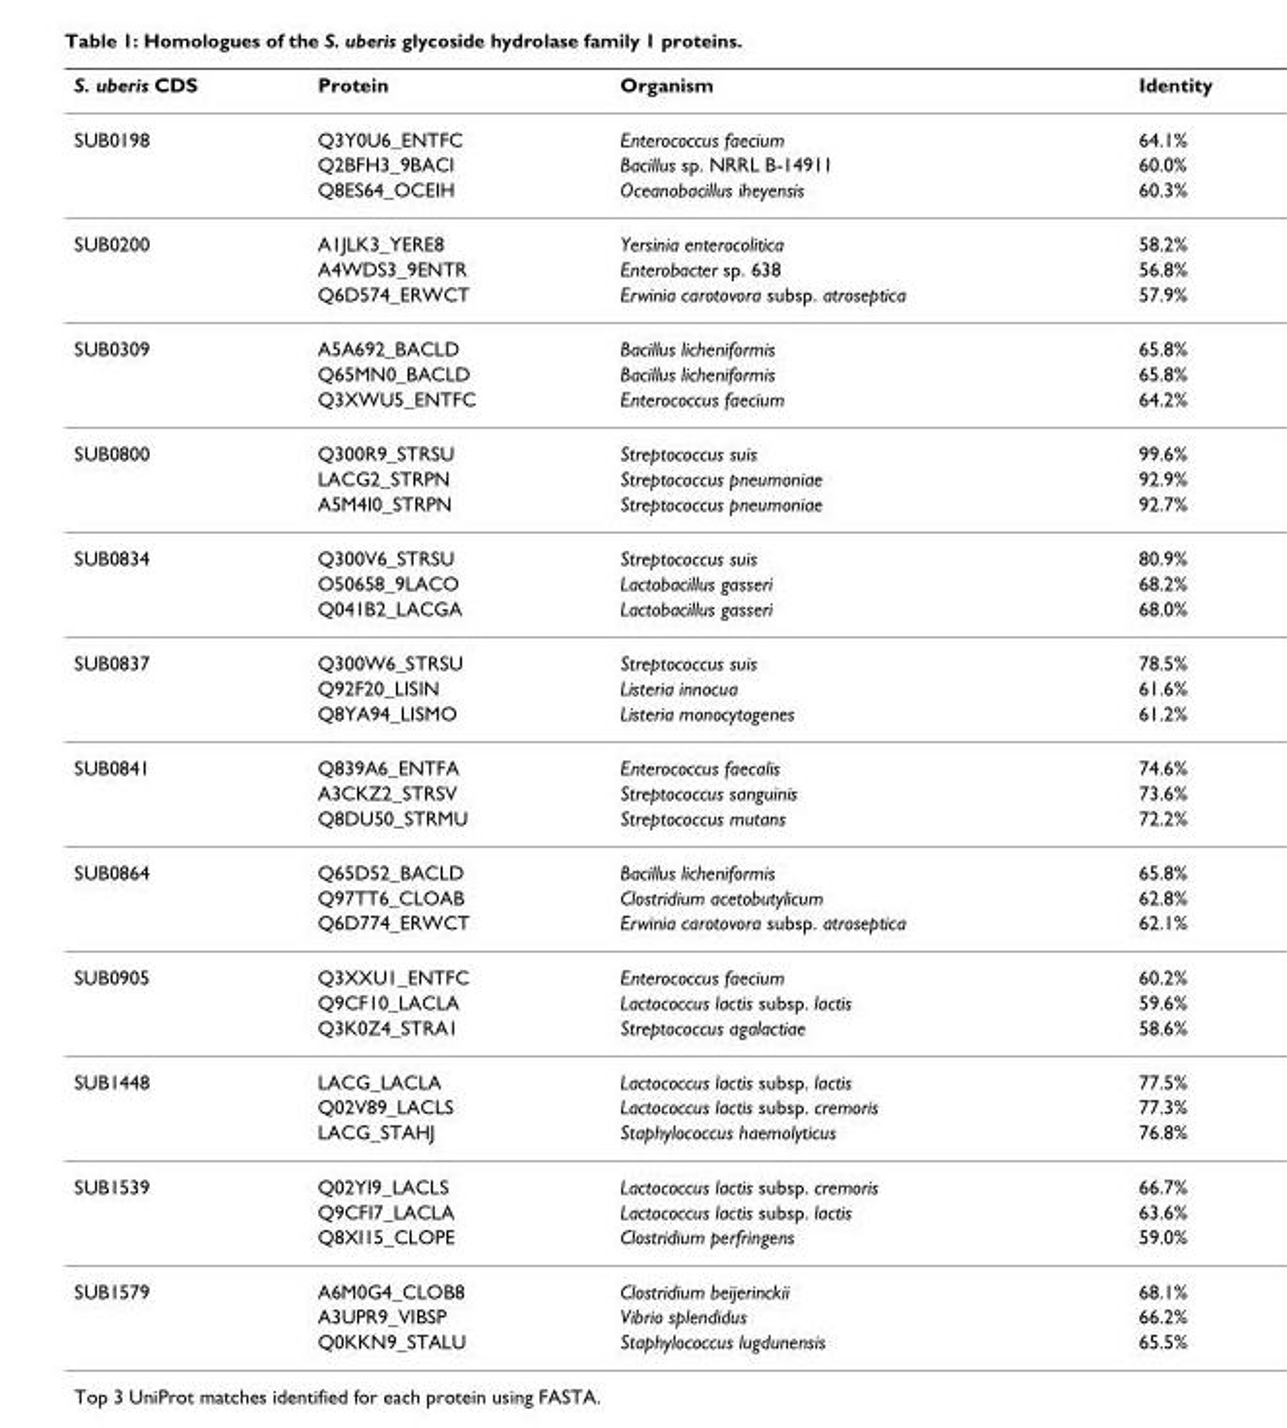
<table><thead><tr><td>S. uberis CDS</td><td>Protein</td><td>Organism</td><td>Identity</td></tr></thead><tbody><tr><td rowspan="3">SUB0198</td><td>Q3Y0U6_ENTFC</td><td>Enterococcus faecium</td><td>64.1%</td></tr><tr><td>Q2BFH3_9BACI</td><td>Bacillus sp. NRRL B-14911</td><td>60.0%</td></tr><tr><td>Q8ES64_OCEIH</td><td>Oceanobacillus iheyensis</td><td>60.3%</td></tr><tr><td rowspan="3">SUB0200</td><td>A1JLK3_YERE8</td><td>Yersinia enterocolitica</td><td>58.2%</td></tr><tr><td>A4WDS3_9ENTR</td><td>Enterobacter sp. 638</td><td>56.8%</td></tr><tr><td>Q6D574_ERWCT</td><td>Erwinia carotovora subsp. atroseptica</td><td>57.9%</td></tr><tr><td rowspan="3">SUB0309</td><td>A5A692_BACLD</td><td>Bacillus licheniformis</td><td>65.8%</td></tr><tr><td>Q65MN0_BACLD</td><td>Bacillus licheniformis</td><td>65.8%</td></tr><tr><td>Q3XWU5_ENTFC</td><td>Enterococcus faecium</td><td>64.2%</td></tr><tr><td rowspan="3">SUB0800</td><td>Q300R9_STRSU</td><td>Streptococcus suis</td><td>99.6%</td></tr><tr><td>LACG2_STRPN</td><td>Streptococcus pneumoniae</td><td>92.9%</td></tr><tr><td>A5M4I0_STRPN</td><td>Streptococcus pneumoniae</td><td>92.7%</td></tr><tr><td rowspan="3">SUB0834</td><td>Q300V6_STRSU</td><td>Streptococcus suis</td><td>80.9%</td></tr><tr><td>O50658_9LACO</td><td>Lactobacillus gasseri</td><td>68.2%</td></tr><tr><td>Q041B2_LACGA</td><td>Lactobacillus gasseri</td><td>68.0%</td></tr><tr><td rowspan="3">SUB0837</td><td>Q300W6_STRSU</td><td>Streptococcus suis</td><td>78.5%</td></tr><tr><td>Q92F20_LISIN</td><td>Listeria innocua</td><td>61.6%</td></tr><tr><td>Q8YA94_LISMO</td><td>Listeria monocytogenes</td><td>61.2%</td></tr><tr><td rowspan="3">SUB0841</td><td>Q839A6_ENTFA</td><td>Enterococcus faecalis</td><td>74.6%</td></tr><tr><td>A3CKZ2_STRSV</td><td>Streptococcus sanguinis</td><td>73.6%</td></tr><tr><td>Q8DU50_STRMU</td><td>Streptococcus mutans</td><td>72.2%</td></tr><tr><td rowspan="3">SUB0864</td><td>Q65D52_BACLD</td><td>Bacillus licheniformis</td><td>65.8%</td></tr><tr><td>Q97TT6_CLOAB</td><td>Clostridium acetobutylicum</td><td>62.8%</td></tr><tr><td>Q6D774_ERWCT</td><td>Erwinia carotovora subsp. atroseptica</td><td>62.1%</td></tr><tr><td rowspan="3">SUB0905</td><td>Q3XXU1_ENTFC</td><td>Enterococcus faecium</td><td>60.2%</td></tr><tr><td>Q9CF10_LACLA</td><td>Lactococcus lactis subsp. lactis</td><td>59.6%</td></tr><tr><td>Q3K0Z4_STRA1</td><td>Streptococcus agalactiae</td><td>58.6%</td></tr><tr><td rowspan="3">SUB1448</td><td>LACG_LACLA</td><td>Lactococcus lactis subsp. lactis</td><td>77.5%</td></tr><tr><td>Q02V89_LACLS</td><td>Lactococcus lactis subsp. cremoris</td><td>77.3%</td></tr><tr><td>LACG_STAHJ</td><td>Staphylococcus haemolyticus</td><td>76.8%</td></tr><tr><td rowspan="3">SUB1539</td><td>Q02YI9_LACLS</td><td>Lactococcus lactis subsp. cremoris</td><td>66.7%</td></tr><tr><td>Q9CFI7_LACLA</td><td>Lactococcus lactis subsp. lactis</td><td>63.6%</td></tr><tr><td>Q8XI15_CLOPE</td><td>Clostridium perfringens</td><td>59.0%</td></tr><tr><td rowspan="3">SUB1579</td><td>A6M0G4_CLOB8</td><td>Clostridium beijerinckii</td><td>68.1%</td></tr><tr><td>A3UPR9_VIBSP</td><td>Vibrio splendidus</td><td>66.2%</td></tr><tr><td>Q0KKN9_STALU</td><td>Staphylococcus lugdunensis</td><td>65.5%</td></tr></tbody></table>